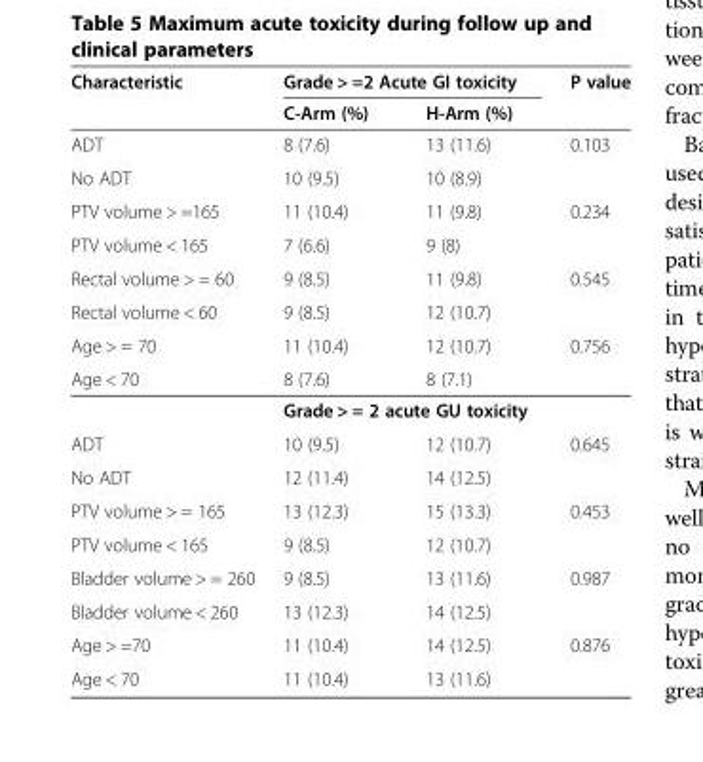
<table><thead><tr><td rowspan="2">Characteristic</td><td colspan="2">Grade &gt; =2 Acute GI toxicity</td><td rowspan="2">P value</td></tr><tr><td>C-Arm (%)</td><td>H-Arm (%)</td></tr></thead><tbody><tr><td>ADT</td><td>8 (7.6)</td><td>13 (11.6)</td><td>0.103</td></tr><tr><td>No ADT</td><td>10 (9.5)</td><td>10 (8.9)</td><td></td></tr><tr><td>PTV volume &gt; =165</td><td>11 (10.4)</td><td>11 (9.8)</td><td>0.234</td></tr><tr><td>PTV volume &lt; 165</td><td>7 (6.6)</td><td>9 (8)</td><td></td></tr><tr><td>Rectal volume &gt; = 60</td><td>9 (8.5)</td><td>11 (9.8)</td><td>0.545</td></tr><tr><td>Rectal volume &lt; 60</td><td>9 (8.5)</td><td>12 (10.7)</td><td></td></tr><tr><td>Age &gt; = 70</td><td>11 (10.4)</td><td>12 (10.7)</td><td>0.756</td></tr><tr><td rowspan="2">Age &lt; 70</td><td>8 (7.6)</td><td>8 (7.1)</td><td></td></tr><tr><td colspan="2">Grade &gt; = 2 acute GU toxicity</td><td></td></tr><tr><td>ADT</td><td>10 (9.5)</td><td>12 (10.7)</td><td>0.645</td></tr><tr><td>No ADT</td><td>12 (11.4)</td><td>14 (12.5)</td><td></td></tr><tr><td>PTV volume &gt; = 165</td><td>13 (12.3)</td><td>15 (13.3)</td><td>0.453</td></tr><tr><td>PTV volume &lt; 165</td><td>9 (8.5)</td><td>12 (10.7)</td><td></td></tr><tr><td>Bladder volume &gt; = 260</td><td>9 (8.5)</td><td>13 (11.6)</td><td>0.987</td></tr><tr><td>Bladder volume &lt; 260</td><td>13 (12.3)</td><td>14 (12.5)</td><td></td></tr><tr><td>Age &gt; =70</td><td>11 (10.4)</td><td>14 (12.5)</td><td>0.876</td></tr><tr><td>Age &lt; 70</td><td>11 (10.4)</td><td>13 (11.6)</td><td></td></tr></tbody></table>